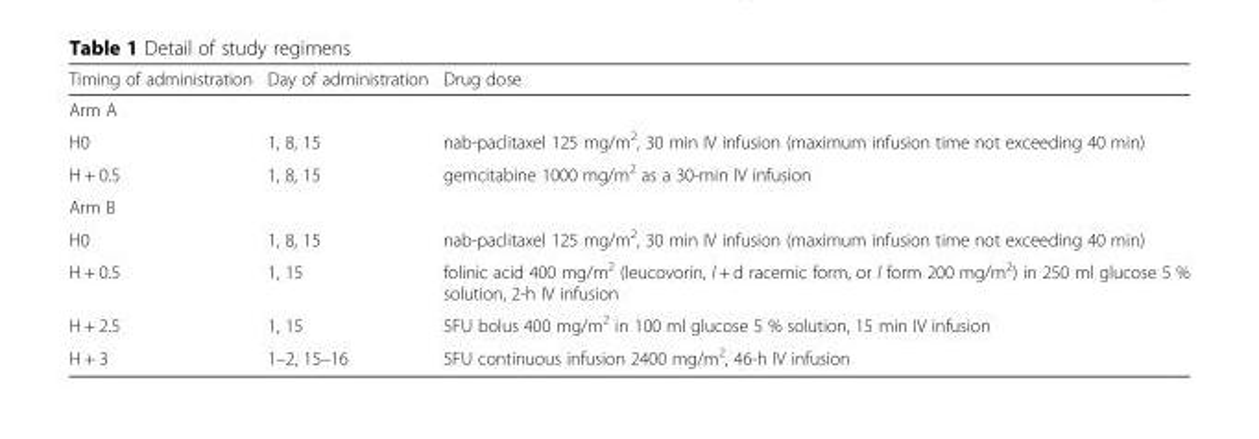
<table><thead><tr><td>Timing of administration</td><td>Day of administration</td><td>Drug dose</td></tr></thead><tbody><tr><td colspan="3">Arm A</td></tr><tr><td>H0</td><td>1, 8, 15</td><td>nab-paclitaxel 125 mg/m<sup>2</sup>, 30 min IV infusion (maximum infusion time not exceeding 40 min)</td></tr><tr><td>H + 0.5</td><td>1, 8, 15</td><td>gemcitabine 1000 mg/m<sup>2</sup> as a 30-min IV infusion</td></tr><tr><td colspan="3">Arm B</td></tr><tr><td>H0</td><td>1, 8, 15</td><td>nab-paclitaxel 125 mg/m<sup>2</sup>, 30 min IV infusion (maximum infusion time not exceeding 40 min)</td></tr><tr><td>H + 0.5</td><td>1, 15</td><td>folinic acid 400 mg/m<sup>2</sup> (leucovorin, l + d racemic form, or l form 200 mg/m<sup>2</sup>) in 250 ml glucose 5 % solution, 2-h IV infusion</td></tr><tr><td>H + 2.5</td><td>1, 15</td><td>5FU bolus 400 mg/m<sup>2</sup> in 100 ml glucose 5 % solution, 15 min IV infusion</td></tr><tr><td>H + 3</td><td>1–2, 15–16</td><td>5FU continuous infusion 2400 mg/m<sup>2</sup>, 46-h IV infusion</td></tr></tbody></table>